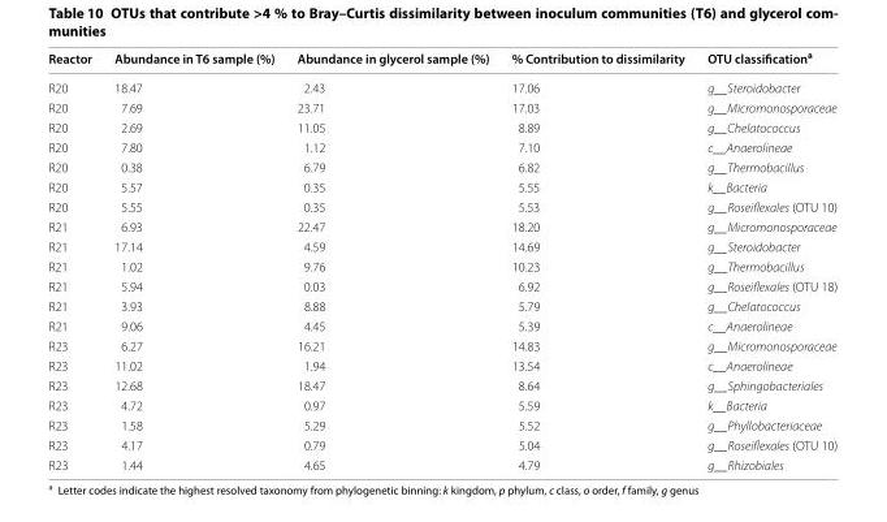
<table><thead><tr><td>Reactor</td><td>Abundance in T6 sample (%)</td><td>Abundance in glycerol sample (%)</td><td>% Contribution to dissimilarity</td><td>OTU classification<sup>a</sup></td></tr></thead><tbody><tr><td>R20</td><td>18.47</td><td>2.43</td><td>17.06</td><td>g__Steroidobacter</td></tr><tr><td>R20</td><td>7.69</td><td>23.71</td><td>17.03</td><td>g__Micromonosporaceae</td></tr><tr><td>R20</td><td>2.69</td><td>11.05</td><td>8.89</td><td>g__Chelatococcus</td></tr><tr><td>R20</td><td>7.80</td><td>1.12</td><td>7.10</td><td>c__Anaerolineae</td></tr><tr><td>R20</td><td>0.38</td><td>6.79</td><td>6.82</td><td>g__Thermobacillus</td></tr><tr><td>R20</td><td>5.57</td><td>0.35</td><td>5.55</td><td>k__Bacteria</td></tr><tr><td>R20</td><td>5.55</td><td>0.35</td><td>5.53</td><td>g__Roseiflexales (OTU 10)</td></tr><tr><td>R21</td><td>6.93</td><td>22.47</td><td>18.20</td><td>g__Micromonosporaceae</td></tr><tr><td>R21</td><td>17.14</td><td>4.59</td><td>14.69</td><td>g__Steroidobacter</td></tr><tr><td>R21</td><td>1.02</td><td>9.76</td><td>10.23</td><td>g__Thermobacillus</td></tr><tr><td>R21</td><td>5.94</td><td>0.03</td><td>6.92</td><td>g__Roseiflexales (OTU 18)</td></tr><tr><td>R21</td><td>3.93</td><td>8.88</td><td>5.79</td><td>g__Chelatococcus</td></tr><tr><td>R21</td><td>9.06</td><td>4.45</td><td>5.39</td><td>c__Anaerolineae</td></tr><tr><td>R23</td><td>6.27</td><td>16.21</td><td>14.83</td><td>g__Micromonosporaceae</td></tr><tr><td>R23</td><td>11.02</td><td>1.94</td><td>13.54</td><td>c__Anaerolineae</td></tr><tr><td>R23</td><td>12.68</td><td>18.47</td><td>8.64</td><td>g__Sphingobacteriales</td></tr><tr><td>R23</td><td>4.72</td><td>0.97</td><td>5.59</td><td>k__Bacteria</td></tr><tr><td>R23</td><td>1.58</td><td>5.29</td><td>5.52</td><td>g__Phyllobacteriaceae</td></tr><tr><td>R23</td><td>4.17</td><td>0.79</td><td>5.04</td><td>g__Roseiflexales (OTU 10)</td></tr><tr><td>R23</td><td>1.44</td><td>4.65</td><td>4.79</td><td>g__Rhizobiales</td></tr></tbody></table>